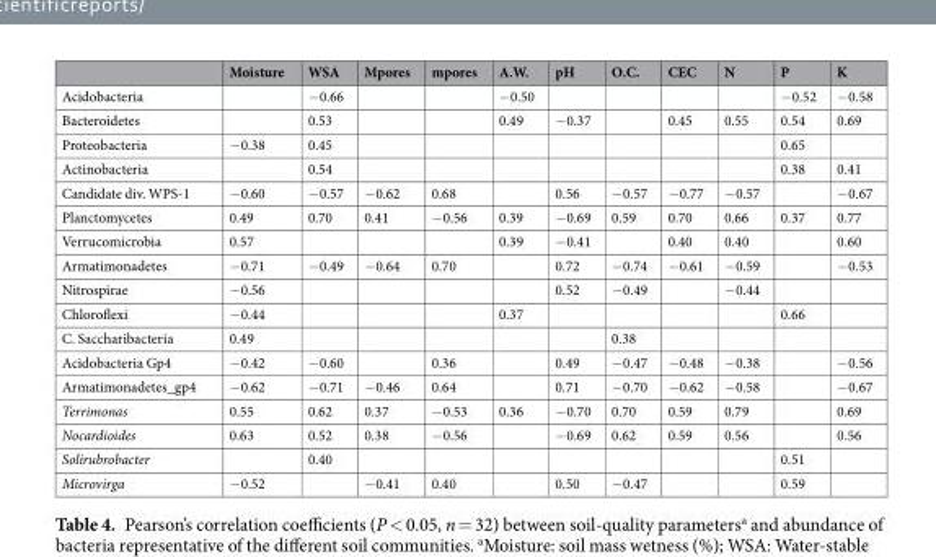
<table><thead><tr><td></td><td>Moisture</td><td>WSA</td><td>Mpores</td><td>mpores</td><td>A.W.</td><td>pH</td><td>O.C.</td><td>CEC</td><td>N</td><td>P</td><td>K</td></tr></thead><tbody><tr><td>Acidobacteria</td><td></td><td>−0.66</td><td></td><td></td><td>−0.50</td><td></td><td></td><td></td><td></td><td>−0.52</td><td>−0.58</td></tr><tr><td>Bacteroidetes</td><td></td><td>0.53</td><td></td><td></td><td>0.49</td><td>−0.37</td><td></td><td>0.45</td><td>0.55</td><td>0.54</td><td>0.69</td></tr><tr><td>Proteobacteria</td><td>−0.38</td><td>0.45</td><td></td><td></td><td></td><td></td><td></td><td></td><td></td><td>0.65</td><td></td></tr><tr><td>Actinobacteria</td><td></td><td>0.54</td><td></td><td></td><td></td><td></td><td></td><td></td><td></td><td>0.38</td><td>0.41</td></tr><tr><td>Candidate div. WPS-1</td><td>−0.60</td><td>−0.57</td><td>−0.62</td><td>0.68</td><td></td><td>0.56</td><td>−0.57</td><td>−0.77</td><td>−0.57</td><td></td><td>−0.67</td></tr><tr><td>Planctomycetes</td><td>0.49</td><td>0.70</td><td>0.41</td><td>−0.56</td><td>0.39</td><td>−0.69</td><td>0.59</td><td>0.70</td><td>0.66</td><td>0.37</td><td>0.77</td></tr><tr><td>Verrucomicrobia</td><td>0.57</td><td></td><td></td><td></td><td>0.39</td><td>−0.41</td><td></td><td>0.40</td><td>0.40</td><td></td><td>0.60</td></tr><tr><td>Armatimonadetes</td><td>−0.71</td><td>−0.49</td><td>−0.64</td><td>0.70</td><td></td><td>0.72</td><td>−0.74</td><td>−0.61</td><td>−0.59</td><td></td><td>−0.53</td></tr><tr><td>Nitrospirae</td><td>−0.56</td><td></td><td></td><td></td><td></td><td>0.52</td><td>−0.49</td><td></td><td>−0.44</td><td></td><td></td></tr><tr><td>Chloroflexi</td><td>−0.44</td><td></td><td></td><td></td><td>0.37</td><td></td><td></td><td></td><td></td><td>0.66</td><td></td></tr><tr><td>C. Saccharibacteria</td><td>0.49</td><td></td><td></td><td></td><td></td><td></td><td>0.38</td><td></td><td></td><td></td><td></td></tr><tr><td>Acidobacteria Gp4</td><td>−0.42</td><td>−0.60</td><td></td><td>0.36</td><td></td><td>0.49</td><td>−0.47</td><td>−0.48</td><td>−0.38</td><td></td><td>−0.56</td></tr><tr><td>Armatimonadetes_gp4</td><td>−0.62</td><td>−0.71</td><td>−0.46</td><td>0.64</td><td></td><td>0.71</td><td>−0.70</td><td>−0.62</td><td>−0.58</td><td></td><td>−0.67</td></tr><tr><td>Terrimonas</td><td>0.55</td><td>0.62</td><td>0.37</td><td>−0.53</td><td>0.36</td><td>−0.70</td><td>0.70</td><td>0.59</td><td>0.79</td><td></td><td>0.69</td></tr><tr><td>Nocardioides</td><td>0.63</td><td>0.52</td><td>0.38</td><td>−0.56</td><td></td><td>−0.69</td><td>0.62</td><td>0.59</td><td>0.56</td><td></td><td>0.56</td></tr><tr><td>Solirubrobacter</td><td></td><td>0.40</td><td></td><td></td><td></td><td></td><td></td><td></td><td></td><td>0.51</td><td></td></tr><tr><td>Microvirga</td><td>−0.52</td><td></td><td>−0.41</td><td>0.40</td><td></td><td>0.50</td><td>−0.47</td><td></td><td></td><td>0.59</td><td></td></tr></tbody></table>